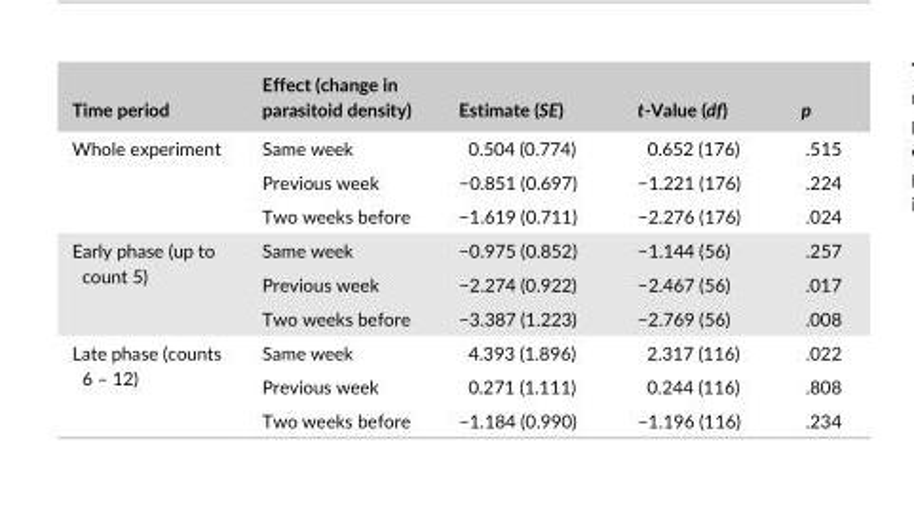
<table><thead><tr><td>Time period</td><td>Effect (change in parasitoid density)</td><td>Estimate (SE)</td><td>t-Value (df)</td><td>p</td></tr></thead><tbody><tr><td rowspan="3">Whole experiment</td><td>Same week</td><td>0.504 (0.774)</td><td>0.652 (176)</td><td>.515</td></tr><tr><td>Previous week</td><td>−0.851 (0.697)</td><td>−1.221 (176)</td><td>.224</td></tr><tr><td>Two weeks before</td><td>−1.619 (0.711)</td><td>−2.276 (176)</td><td>.024</td></tr><tr><td rowspan="3">Early phase (up to count 5)</td><td>Same week</td><td>−0.975 (0.852)</td><td>−1.144 (56)</td><td>.257</td></tr><tr><td>Previous week</td><td>−2.274 (0.922)</td><td>−2.467 (56)</td><td>.017</td></tr><tr><td>Two weeks before</td><td>−3.387 (1.223)</td><td>−2.769 (56)</td><td>.008</td></tr><tr><td rowspan="3">Late phase (counts 6 – 12)</td><td>Same week</td><td>4.393 (1.896)</td><td>2.317 (116)</td><td>.022</td></tr><tr><td>Previous week</td><td>0.271 (1.111)</td><td>0.244 (116)</td><td>.808</td></tr><tr><td>Two weeks before</td><td>−1.184 (0.990)</td><td>−1.196 (116)</td><td>.234</td></tr></tbody></table>